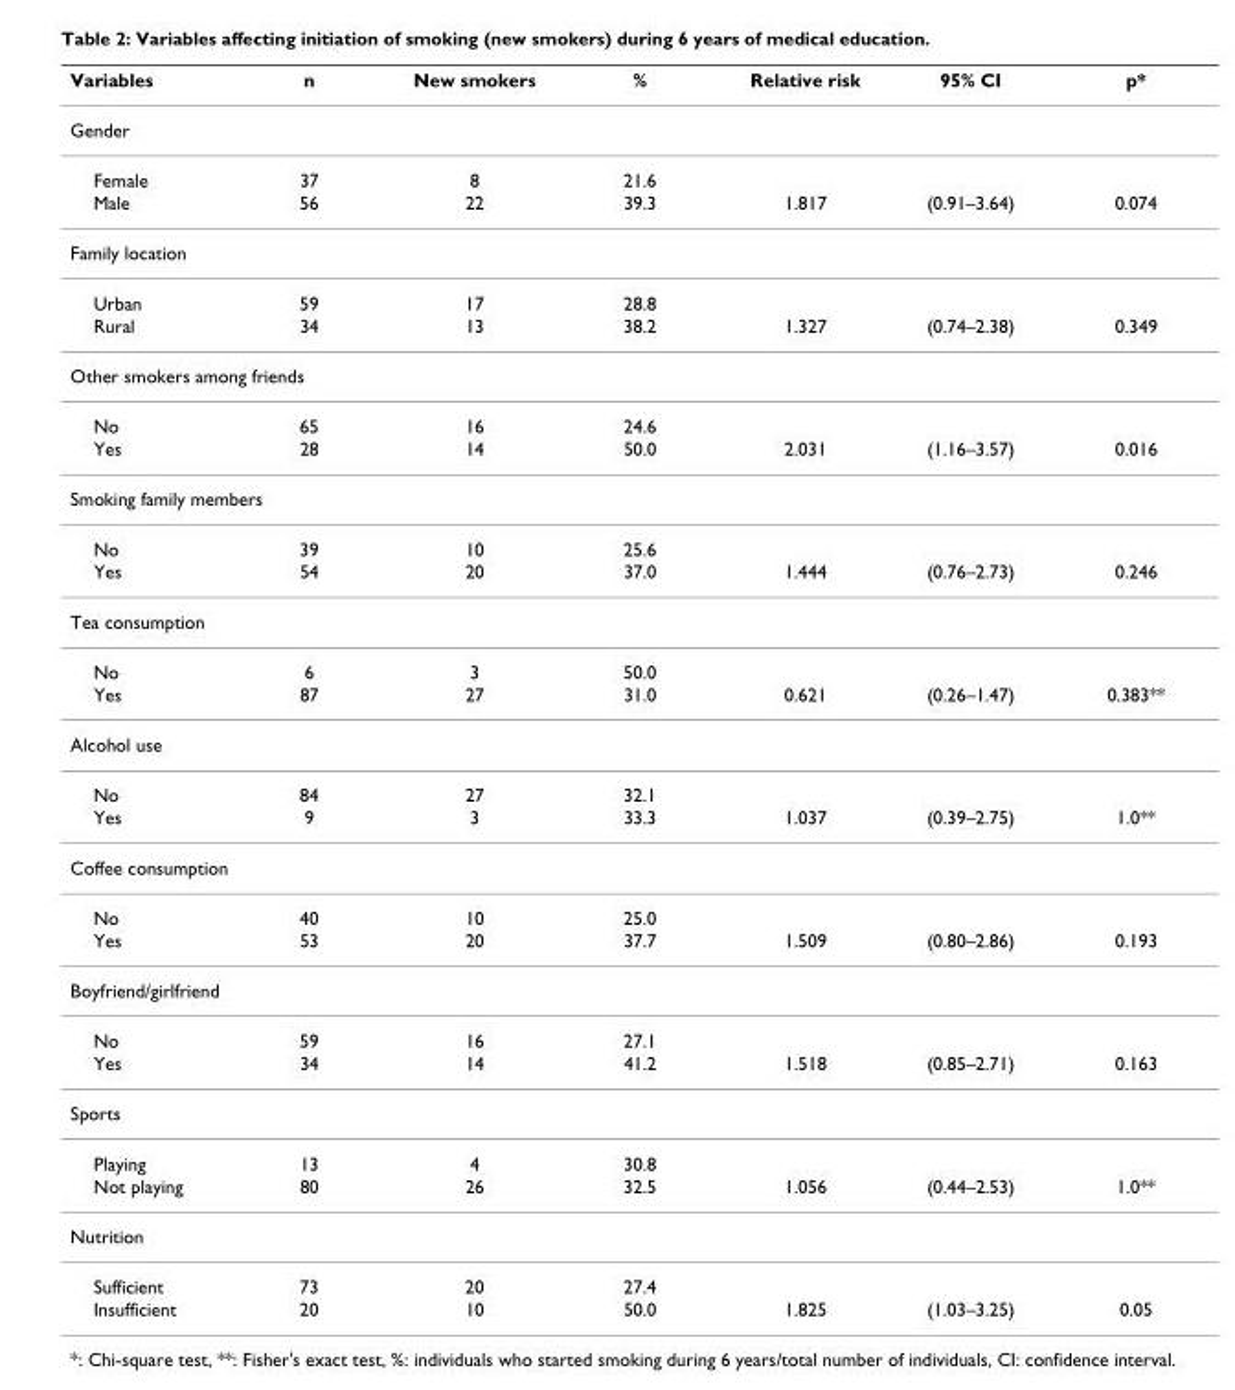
<table><thead><tr><td>Variables</td><td>n</td><td>New smokers</td><td>%</td><td>Relative risk</td><td>95% CI</td><td>p*</td></tr></thead><tbody><tr><td colspan="7">Gender</td></tr><tr><td>Female</td><td>37</td><td>8</td><td>21.6</td><td></td><td></td><td></td></tr><tr><td>Male</td><td>56</td><td>22</td><td>39.3</td><td>1.817</td><td>(0.91–3.64)</td><td>0.074</td></tr><tr><td colspan="7">Family location</td></tr><tr><td>Urban</td><td>59</td><td>17</td><td>28.8</td><td></td><td></td><td></td></tr><tr><td>Rural</td><td>34</td><td>13</td><td>38.2</td><td>1.327</td><td>(0.74–2.38)</td><td>0.349</td></tr><tr><td colspan="7">Other smokers among friends</td></tr><tr><td>No</td><td>65</td><td>16</td><td>24.6</td><td></td><td></td><td></td></tr><tr><td>Yes</td><td>28</td><td>14</td><td>50.0</td><td>2.031</td><td>(1.16–3.57)</td><td>0.016</td></tr><tr><td colspan="7">Smoking family members</td></tr><tr><td>No</td><td>39</td><td>10</td><td>25.6</td><td></td><td></td><td></td></tr><tr><td>Yes</td><td>54</td><td>20</td><td>37.0</td><td>1.444</td><td>(0.76–2.73)</td><td>0.246</td></tr><tr><td colspan="7">Tea consumption</td></tr><tr><td>No</td><td>6</td><td>3</td><td>50.0</td><td></td><td></td><td></td></tr><tr><td>Yes</td><td>87</td><td>27</td><td>31.0</td><td>0.621</td><td>(0.26–1.47)</td><td>0.383**</td></tr><tr><td colspan="7">Alcohol use</td></tr><tr><td>No</td><td>84</td><td>27</td><td>32.1</td><td></td><td></td><td></td></tr><tr><td>Yes</td><td>9</td><td>3</td><td>33.3</td><td>1.037</td><td>(0.39–2.75)</td><td>1.0**</td></tr><tr><td colspan="7">Coffee consumption</td></tr><tr><td>No</td><td>40</td><td>10</td><td>25.0</td><td></td><td></td><td></td></tr><tr><td>Yes</td><td>53</td><td>20</td><td>37.7</td><td>1.509</td><td>(0.80–2.86)</td><td>0.193</td></tr><tr><td colspan="7">Boyfriend/girlfriend</td></tr><tr><td>No</td><td>59</td><td>16</td><td>27.1</td><td></td><td></td><td></td></tr><tr><td>Yes</td><td>34</td><td>14</td><td>41.2</td><td>1.518</td><td>(0.85–2.71)</td><td>0.163</td></tr><tr><td colspan="7">Sports</td></tr><tr><td>Playing</td><td>13</td><td>4</td><td>30.8</td><td></td><td></td><td></td></tr><tr><td>Not playing</td><td>80</td><td>26</td><td>32.5</td><td>1.056</td><td>(0.44–2.53)</td><td>1.0**</td></tr><tr><td colspan="7">Nutrition</td></tr><tr><td>Sufficient</td><td>73</td><td>20</td><td>27.4</td><td></td><td></td><td></td></tr><tr><td>Insufficient</td><td>20</td><td>10</td><td>50.0</td><td>1.825</td><td>(1.03–3.25)</td><td>0.05</td></tr></tbody></table>